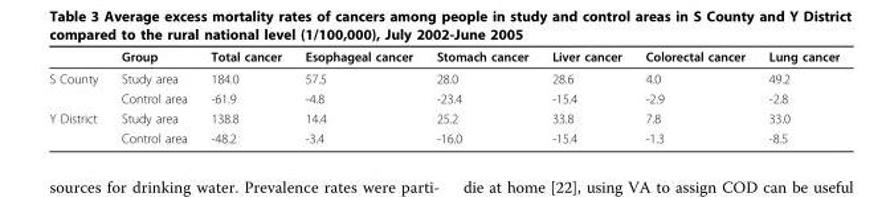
<table><thead><tr><td></td><td>Group</td><td>Total cancer</td><td>Esophageal cancer</td><td>Stomach cancer</td><td>Liver cancer</td><td>Colorectal cancer</td><td>Lung cancer</td></tr></thead><tbody><tr><td rowspan="2">S County</td><td>Study area</td><td>184.0</td><td>57.5</td><td>28.0</td><td>28.6</td><td>4.0</td><td>49.2</td></tr><tr><td>Control area</td><td>-61.9</td><td>-4.8</td><td>-23.4</td><td>-15.4</td><td>-2.9</td><td>-2.8</td></tr><tr><td rowspan="2">Y District</td><td>Study area</td><td>138.8</td><td>14.4</td><td>25.2</td><td>33.8</td><td>7.8</td><td>33.0</td></tr><tr><td>Control area</td><td>-48.2</td><td>-3.4</td><td>-16.0</td><td>-15.4</td><td>-1.3</td><td>-8.5</td></tr></tbody></table>